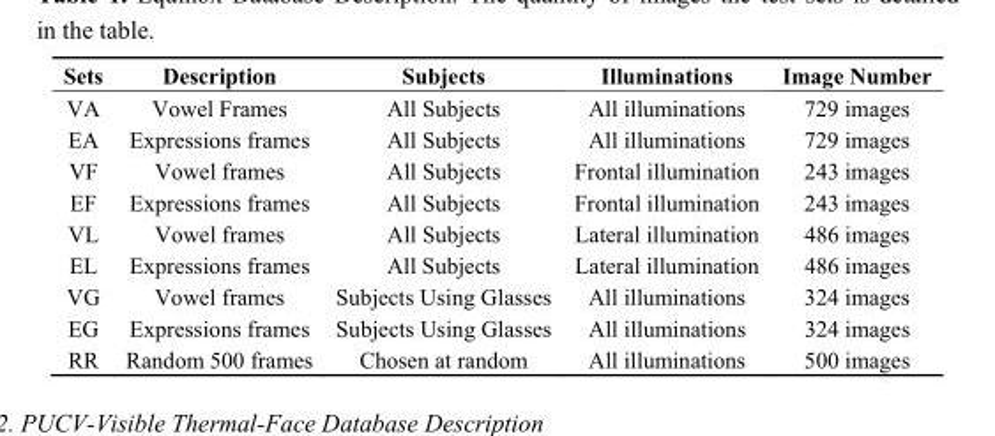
<table><thead><tr><td>Sets</td><td>Description</td><td>Subjects</td><td>Illuminations</td><td>Image Number</td></tr></thead><tbody><tr><td>VA EA</td><td>Vowel Frames Expressions frames</td><td>All Subjects All Subjects</td><td>All illuminations All illuminations</td><td>729 images 729 images</td></tr><tr><td>VF</td><td>Vowel frames</td><td>All Subjects</td><td>Frontal illumination</td><td>243 images</td></tr><tr><td>EF</td><td>Expressions frames</td><td>All Subjects</td><td>Frontal illumination</td><td>243 images</td></tr><tr><td>VL</td><td>Vowel frames</td><td>All Subjects</td><td>Lateral illumination</td><td>486 images</td></tr><tr><td>EL</td><td>Expressions frames</td><td>All Subjects</td><td>Lateral illumination</td><td>486 images</td></tr><tr><td>VG</td><td>Vowel frames</td><td>Subjects Using Glasses</td><td>All illuminations</td><td>324 images</td></tr><tr><td>EG</td><td>Expressions frames</td><td>Subjects Using Glasses</td><td>All illuminations</td><td>324 images</td></tr><tr><td>RR</td><td>Random 500 frames</td><td>Chosen at random</td><td>All illuminations</td><td>500 images</td></tr></tbody></table>